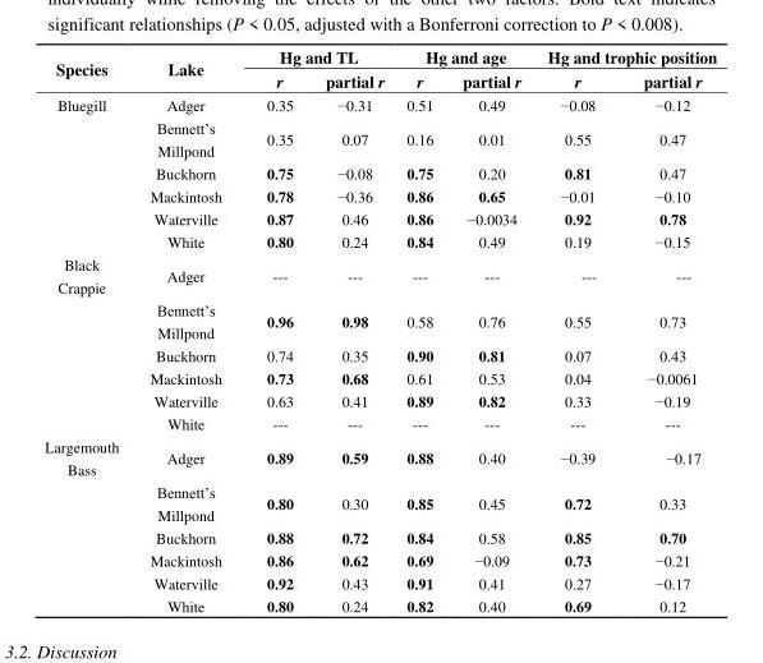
<table><thead><tr><td rowspan="2">Species</td><td rowspan="2">Lake</td><td colspan="2">Hg and TL</td><td colspan="2">Hg and age</td><td colspan="2">Hg and trophic position</td></tr><tr><td>r</td><td>partial r</td><td>r</td><td>partial r</td><td>r</td><td>partial r</td></tr></thead><tbody><tr><td rowspan="6">Bluegill</td><td>Adger</td><td>0.35</td><td>−0.31</td><td>0.51</td><td>0.49</td><td>−0.08</td><td>−0.12</td></tr><tr><td>Bennett‘s Millpond</td><td>0.35</td><td>0.07</td><td>0.16</td><td>0.01</td><td>0.55</td><td>0.47</td></tr><tr><td>Buckhorn</td><td>0.75</td><td>−0.08</td><td>0.75</td><td>0.20</td><td>0.81</td><td>0.47</td></tr><tr><td>Mackintosh</td><td>0.78</td><td>−0.36</td><td>0.86</td><td>0.65</td><td>−0.01</td><td>−0.10</td></tr><tr><td>Waterville</td><td>0.87</td><td>0.46</td><td>0.86</td><td>−0.0034</td><td>0.92</td><td>0.78</td></tr><tr><td>White</td><td>0.80</td><td>0.24</td><td>0.84</td><td>0.49</td><td>0.19</td><td>−0.15</td></tr><tr><td rowspan="6">Black Crappie</td><td>Adger</td><td>---</td><td>---</td><td>---</td><td>---</td><td>---</td><td>---</td></tr><tr><td>Bennett‘s Millpond</td><td>0.96</td><td>0.98</td><td>0.58</td><td>0.76</td><td>0.55</td><td>0.73</td></tr><tr><td>Buckhorn</td><td>0.74</td><td>0.35</td><td>0.90</td><td>0.81</td><td>0.07</td><td>0.43</td></tr><tr><td>Mackintosh</td><td>0.73</td><td>0.68</td><td>0.61</td><td>0.53</td><td>0.04</td><td>−0.0061</td></tr><tr><td>Waterville</td><td>0.63</td><td>0.41</td><td>0.89</td><td>0.82</td><td>0.33</td><td>−0.19</td></tr><tr><td>White</td><td>---</td><td>---</td><td>---</td><td>---</td><td>---</td><td>---</td></tr><tr><td rowspan="6">Largemouth Bass</td><td>Adger</td><td>0.89</td><td>0.59</td><td>0.88</td><td>0.40</td><td>−0.39</td><td>−0.17</td></tr><tr><td>Bennett‘s Millpond</td><td>0.80</td><td>0.30</td><td>0.85</td><td>0.45</td><td>0.72</td><td>0.33</td></tr><tr><td>Buckhorn</td><td>0.88</td><td>0.72</td><td>0.84</td><td>0.58</td><td>0.85</td><td>0.70</td></tr><tr><td>Mackintosh</td><td>0.86</td><td>0.62</td><td>0.69</td><td>−0.09</td><td>0.73</td><td>−0.21</td></tr><tr><td>Waterville</td><td>0.92</td><td>0.43</td><td>0.91</td><td>0.41</td><td>0.27</td><td>−0.17</td></tr><tr><td>White</td><td>0.80</td><td>0.24</td><td>0.82</td><td>0.40</td><td>0.69</td><td>0.12</td></tr></tbody></table>